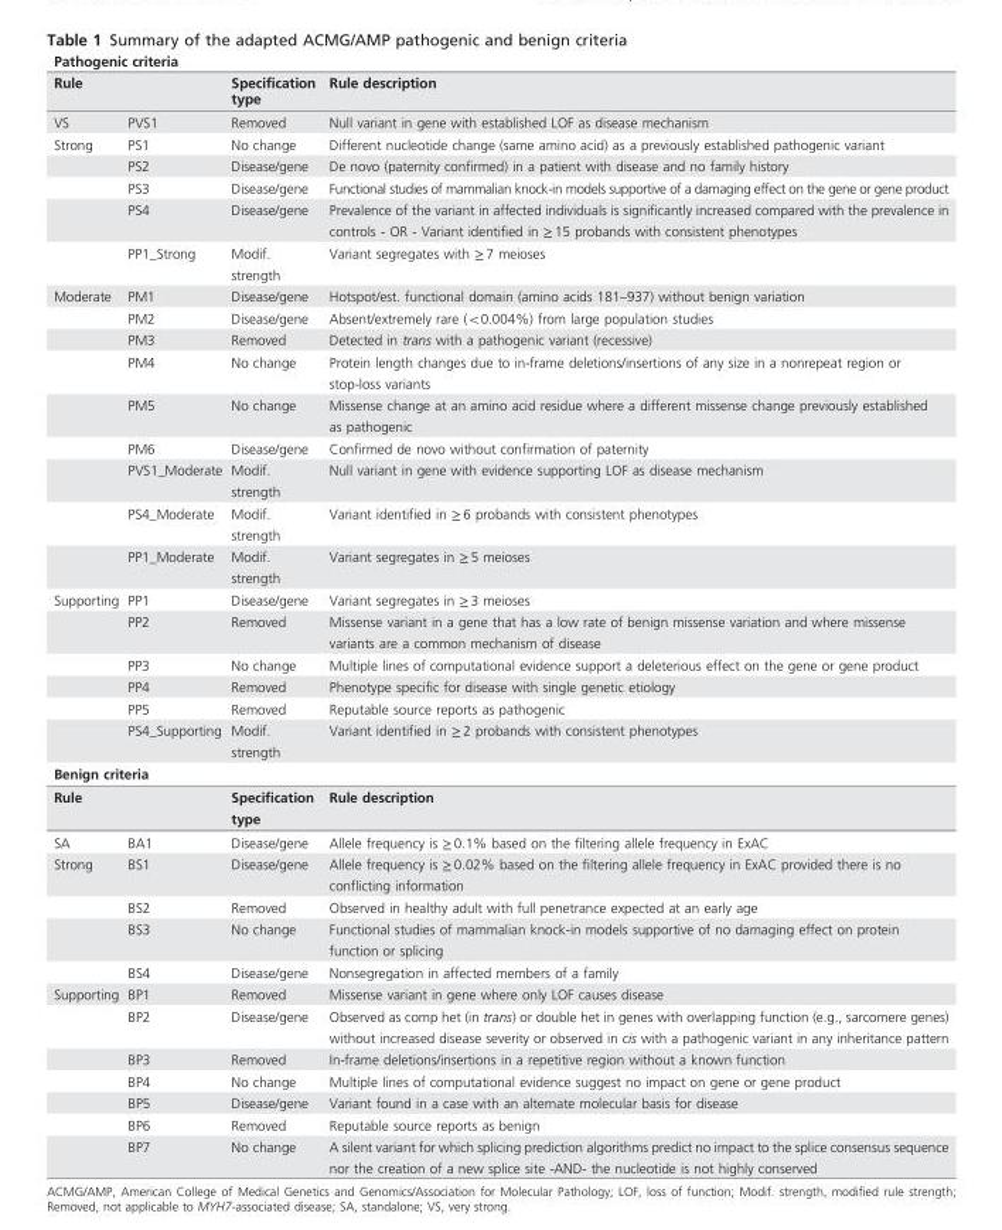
<table><thead><tr><td colspan="4">Pathogenic criteria</td></tr><tr><td colspan="2">Rule</td><td rowspan="2">Specification type Removed</td><td rowspan="2">Rule description Null variant in gene with established LOF as disease mechanism</td></tr><tr><td>VS</td><td>PVS1</td></tr></thead><tbody><tr><td rowspan="5">Strong</td><td>PS1</td><td>No change</td><td>Different nucleotide change (same amino acid) as a previously established pathogenic variant</td></tr><tr><td>PS2</td><td>Disease/gene</td><td>De novo (paternity confirmed) in a patient with disease and no family history</td></tr><tr><td>PS3</td><td>Disease/gene</td><td>Functional studies of mammalian knock-in models supportive of a damaging effect on the gene or gene product</td></tr><tr><td>PS4</td><td>Disease/gene</td><td>Prevalence of the variant in affected individuals is significantly increased compared with the prevalence in controls - OR - Variant identified in ≥ 15 probands with consistent phenotypes</td></tr><tr><td>PP1_Strong</td><td>Modif. strength</td><td>Variant segregates with ≥ 7 meioses</td></tr><tr><td rowspan="9">Moderate</td><td>PM1</td><td>Disease/gene</td><td>Hotspot/est. functional domain (amino acids 181–937) without benign variation</td></tr><tr><td>PM2</td><td>Disease/gene</td><td>Absent/extremely rare (&lt;0.004%) from large population studies</td></tr><tr><td>PM3</td><td>Removed</td><td>Detected in trans with a pathogenic variant (recessive)</td></tr><tr><td>PM4</td><td>No change</td><td>Protein length changes due to in-frame deletions/insertions of any size in a nonrepeat region or stop-loss variants</td></tr><tr><td>PM5</td><td>No change</td><td>Missense change at an amino acid residue where a different missense change previously established as pathogenic</td></tr><tr><td>PM6</td><td>Disease/gene</td><td>Confirmed de novo without confirmation of paternity</td></tr><tr><td>PVS1_Moderate</td><td>Modif. strength</td><td>Null variant in gene with evidence supporting LOF as disease mechanism</td></tr><tr><td>PS4_Moderate</td><td>Modif. strength</td><td>Variant identified in ≥ 6 probands with consistent phenotypes</td></tr><tr><td>PP1_Moderate</td><td>Modif. strength</td><td>Variant segregates in ≥ 5 meioses</td></tr><tr><td rowspan="6">Supporting</td><td>PP1</td><td>Disease/gene</td><td>Variant segregates in ≥ 3 meioses</td></tr><tr><td>PP2</td><td>Removed</td><td>Missense variant in a gene that has a low rate of benign missense variation and where missense variants are a common mechanism of disease</td></tr><tr><td>PP3</td><td>No change</td><td>Multiple lines of computational evidence support a deleterious effect on the gene or gene product</td></tr><tr><td>PP4</td><td>Removed</td><td>Phenotype specific for disease with single genetic etiology</td></tr><tr><td>PP5</td><td>Removed</td><td>Reputable source reports as pathogenic</td></tr><tr><td>PS4_Supporting</td><td>Modif. strength</td><td>Variant identified in ≥ 2 probands with consistent phenotypes</td></tr><tr><td colspan="4">Benign criteria</td></tr><tr><td colspan="2">Rule</td><td>Specification type</td><td>Rule description</td></tr><tr><td>SA</td><td>BA1</td><td>Disease/gene</td><td>Allele frequency is ≥ 0.1% based on the filtering allele frequency in ExAC</td></tr><tr><td rowspan="4">Strong</td><td>BS1</td><td>Disease/gene</td><td>Allele frequency is ≥ 0.02% based on the filtering allele frequency in ExAC provided there is no conflicting information</td></tr><tr><td>BS2</td><td>Removed</td><td>Observed in healthy adult with full penetrance expected at an early age</td></tr><tr><td>BS3</td><td>No change</td><td>Functional studies of mammalian knock-in models supportive of no damaging effect on protein function or splicing</td></tr><tr><td>BS4</td><td>Disease/gene</td><td>Nonsegregation in affected members of a family</td></tr><tr><td rowspan="7">Supporting</td><td>BP1</td><td>Removed</td><td>Missense variant in gene where only LOF causes disease</td></tr><tr><td>BP2</td><td>Disease/gene</td><td>Observed as comp het (in trans) or double het in genes with overlapping function (e.g., sarcomere genes) without increased disease severity or observed in cis with a pathogenic variant in any inheritance pattern</td></tr><tr><td>BP3</td><td>Removed</td><td>In-frame deletions/insertions in a repetitive region without a known function</td></tr><tr><td>BP4</td><td>No change</td><td>Multiple lines of computational evidence suggest no impact on gene or gene product</td></tr><tr><td>BP5</td><td>Disease/gene</td><td>Variant found in a case with an alternate molecular basis for disease</td></tr><tr><td>BP6</td><td>Removed</td><td>Reputable source reports as benign</td></tr><tr><td>BP7</td><td>No change</td><td>A silent variant for which splicing prediction algorithms predict no impact to the splice consensus sequence nor the creation of a new splice site -AND- the nucleotide is not highly conserved</td></tr></tbody></table>